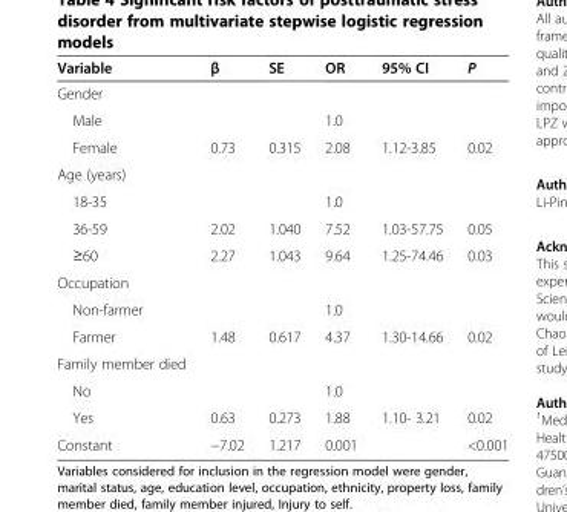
<table><thead><tr><td>Variable</td><td>β</td><td>SE</td><td>OR</td><td>95% CI</td><td>P</td></tr></thead><tbody><tr><td colspan="6">Gender</td></tr><tr><td>Male</td><td></td><td></td><td>1.0</td><td></td><td></td></tr><tr><td>Female</td><td>0.73</td><td>0.315</td><td>2.08</td><td>1.12-3.85</td><td>0.02</td></tr><tr><td colspan="6">Age (years)</td></tr><tr><td>18-35</td><td></td><td></td><td>1.0</td><td></td><td></td></tr><tr><td>36-59</td><td>2.02</td><td>1.040</td><td>7.52</td><td>1.03-57.75</td><td>0.05</td></tr><tr><td>≥60</td><td>2.27</td><td>1.043</td><td>9.64</td><td>1.25-74.46</td><td>0.03</td></tr><tr><td colspan="6">Occupation</td></tr><tr><td>Non-farmer</td><td></td><td></td><td>1.0</td><td></td><td></td></tr><tr><td>Farmer</td><td>1.48</td><td>0.617</td><td>4.37</td><td>1.30-14.66</td><td>0.02</td></tr><tr><td colspan="6">Family member died</td></tr><tr><td>No</td><td></td><td></td><td>1.0</td><td></td><td></td></tr><tr><td>Yes</td><td>0.63</td><td>0.273</td><td>1.88</td><td>1.10- 3.21</td><td>0.02</td></tr><tr><td>Constant</td><td>−7.02</td><td>1.217</td><td>0.001</td><td></td><td>&lt;0.001</td></tr></tbody></table>